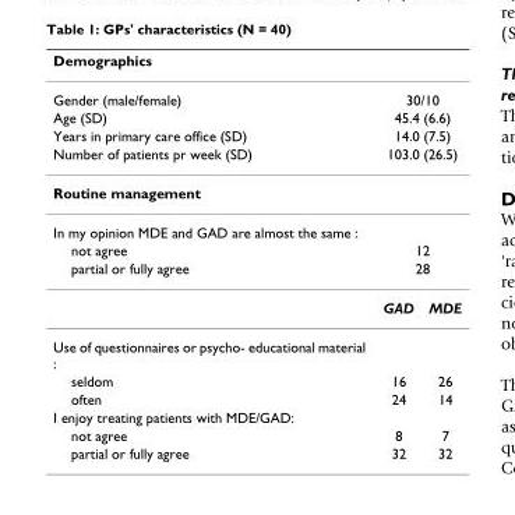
<table><thead><tr><td colspan="3">Demographics</td></tr></thead><tbody><tr><td>Gender (male/female)</td><td colspan="2">30/10</td></tr><tr><td>Age (SD)</td><td colspan="2">45.4 (6.6)</td></tr><tr><td>Years in primary care office (SD)</td><td colspan="2">14.0 (7.5)</td></tr><tr><td>Number of patients pr week (SD)</td><td colspan="2">103.0 (26.5)</td></tr><tr><td colspan="3">Routine management</td></tr><tr><td colspan="3">In my opinion MDE and GAD are almost the same :</td></tr><tr><td>not agree</td><td colspan="2">12</td></tr><tr><td rowspan="2">partial or fully agree</td><td colspan="2">28</td></tr><tr><td>GAD</td><td>MDE</td></tr><tr><td colspan="3">Use of questionnaires or psycho- educational material :</td></tr><tr><td>seldom</td><td>16</td><td>26</td></tr><tr><td>often</td><td>24</td><td>14</td></tr><tr><td colspan="3">I enjoy treating patients with MDE/GAD:</td></tr><tr><td>not agree</td><td>8</td><td>7</td></tr><tr><td>partial or fully agree</td><td>32</td><td>32</td></tr></tbody></table>